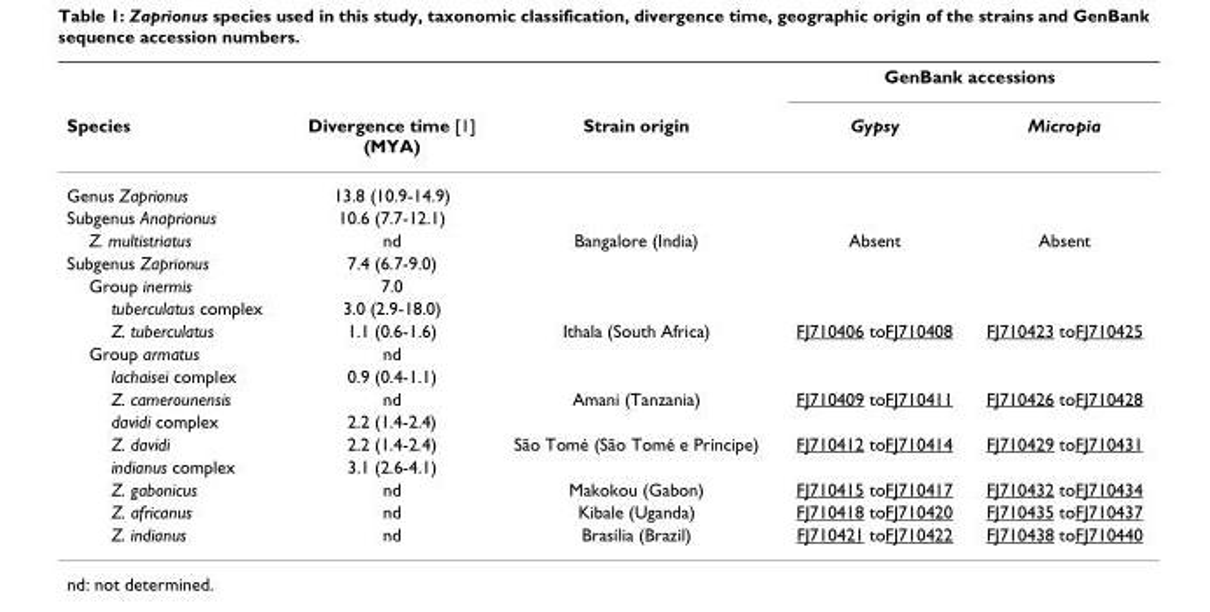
<table><thead><tr><td rowspan="2">Species</td><td rowspan="2">Divergence time [1] (MYA)</td><td rowspan="2">Strain origin</td><td colspan="2">GenBank accessions</td></tr><tr><td>Gypsy</td><td>Micropia</td></tr></thead><tbody><tr><td>Genus Zaprionus</td><td>13.8 (10.9-14.9)</td><td></td><td></td><td></td></tr><tr><td>Subgenus Anaprionus</td><td>10.6 (7.7-12.1)</td><td></td><td></td><td></td></tr><tr><td>Z. multistriatus</td><td>nd</td><td>Bangalore (India)</td><td>Absent</td><td>Absent</td></tr><tr><td>Subgenus Zaprionus</td><td>7.4 (6.7-9.0)</td><td></td><td></td><td></td></tr><tr><td>Group inermis</td><td>7.0</td><td></td><td></td><td></td></tr><tr><td>tuberculatus complex</td><td>3.0 (2.9-18.0)</td><td></td><td></td><td></td></tr><tr><td>Z. tuberculatus</td><td>1.1 (0.6-1.6)</td><td>Ithala (South Africa)</td><td>FJ710406 toFJ710408</td><td>FJ710423 toFJ710425</td></tr><tr><td>Group armatus</td><td>nd</td><td></td><td></td><td></td></tr><tr><td>lachaisei complex</td><td>0.9 (0.4-1.1)</td><td></td><td></td><td></td></tr><tr><td>Z. camerounensis</td><td>nd</td><td>Amani (Tanzania)</td><td>FJ710409 toFJ710411</td><td>FJ710426 toFJ710428</td></tr><tr><td>davidi complex</td><td>2.2 (1.4-2.4)</td><td></td><td></td><td></td></tr><tr><td>Z. davidi</td><td>2.2 (1.4-2.4)</td><td>São Tomé (São Tomé e Príncipe)</td><td>FJ710412 toFJ710414</td><td>FJ710429 toFJ710431</td></tr><tr><td>indianus complex</td><td>3.1 (2.6-4.1)</td><td></td><td></td><td></td></tr><tr><td>Z. gabonicus</td><td>nd</td><td>Makokou (Gabon)</td><td>FJ710415 toFJ710417</td><td>FJ710432 toFJ710434</td></tr><tr><td>Z. africanus</td><td>nd</td><td>Kibale (Uganda)</td><td>FJ710418 toFJ710420</td><td>FJ710435 toFJ710437</td></tr><tr><td>Z. indianus</td><td>nd</td><td>Brasília (Brazil)</td><td>FJ710421 toFJ710422</td><td>FJ710438 toFJ710440</td></tr></tbody></table>